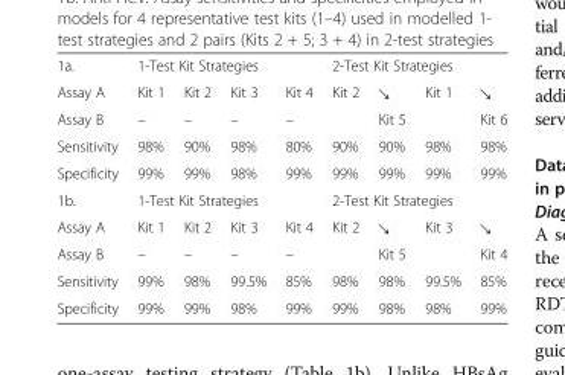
<table><tbody><tr><td>1a.</td><td colspan="4">1-Test Kit Strategies</td><td colspan="4">2-Test Kit Strategies</td></tr><tr><td>Assay A</td><td>Kit 1</td><td>Kit 2</td><td>Kit 3</td><td>Kit 4</td><td>Kit 2</td><td>↘</td><td>Kit 1</td><td>↘</td></tr><tr><td>Assay B</td><td>–</td><td>–</td><td>–</td><td>–</td><td></td><td>Kit 5</td><td></td><td>Kit 6</td></tr><tr><td>Sensitivity</td><td>98%</td><td>90%</td><td>98%</td><td>80%</td><td>90%</td><td>90%</td><td>98%</td><td>98%</td></tr><tr><td>Specificity</td><td>99%</td><td>99%</td><td>98%</td><td>99%</td><td>99%</td><td>99%</td><td>99%</td><td>99%</td></tr><tr><td>1b.</td><td colspan="4">1-Test Kit Strategies</td><td colspan="4">2-Test Kit Strategies</td></tr><tr><td>Assay A</td><td>Kit 1</td><td>Kit 2</td><td>Kit 3</td><td>Kit 4</td><td>Kit 2</td><td>↘</td><td>Kit 3</td><td>↘</td></tr><tr><td>Assay B</td><td>–</td><td>–</td><td>–</td><td>–</td><td></td><td>Kit 5</td><td></td><td>Kit 4</td></tr><tr><td>Sensitivity</td><td>99%</td><td>98%</td><td>99.5%</td><td>85%</td><td>98%</td><td>98%</td><td>99.5%</td><td>85%</td></tr><tr><td>Specificity</td><td>99%</td><td>99%</td><td>98%</td><td>99%</td><td>99%</td><td>98%</td><td>98%</td><td>99%</td></tr></tbody></table>